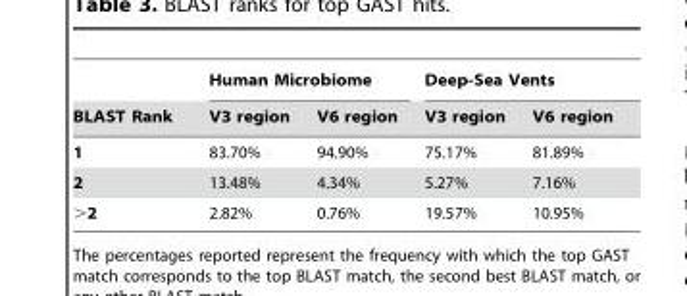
<table><thead><tr><td rowspan="2">BLAST Rank</td><td colspan="2">Human Microbiome</td><td colspan="2">Deep-Sea Vents</td></tr><tr><td>V3 region</td><td>V6 region</td><td>V3 region</td><td>V6 region</td></tr></thead><tbody><tr><td>1</td><td>83.70%</td><td>94.90%</td><td>75.17%</td><td>81.89%</td></tr><tr><td>2</td><td>13.48%</td><td>4.34%</td><td>5.27%</td><td>7.16%</td></tr><tr><td>&gt;2</td><td>2.82%</td><td>0.76%</td><td>19.57%</td><td>10.95%</td></tr></tbody></table>